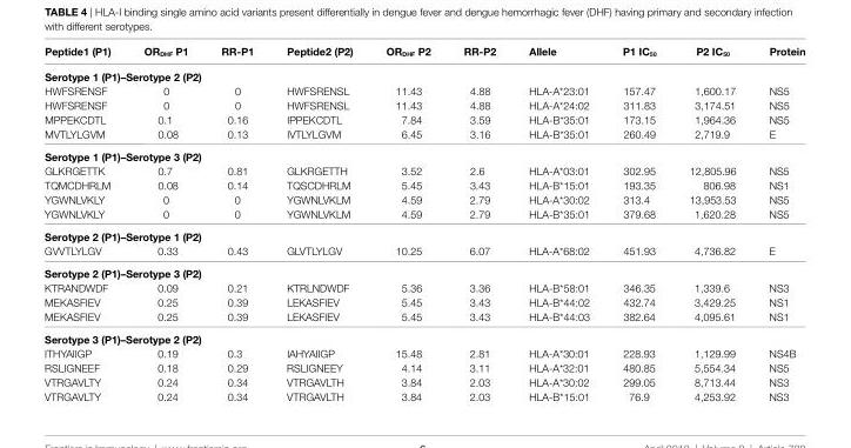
<table><thead><tr><td>Peptide1 (P1)</td><td>Or<sub>DhF</sub> P1</td><td>rr-P1</td><td>Peptide2 (P2)</td><td>Or<sub>DhF</sub> P2</td><td>rr-P2</td><td>allele</td><td>P1 ic<sub>50</sub></td><td>P2 ic<sub>50</sub></td><td>Protein</td></tr></thead><tbody><tr><td colspan="10">serotype 1 (P1)–serotype 2 (P2)</td></tr><tr><td>HWFSRENSF</td><td>0</td><td>0</td><td>HWFSRENSL</td><td>11.43</td><td>4.88</td><td>HLA-A*23:01</td><td>157.47</td><td>1,600.17</td><td>NS5</td></tr><tr><td>HWFSRENSF</td><td>0</td><td>0</td><td>HWFSRENSL</td><td>11.43</td><td>4.88</td><td>HLA-A*24:02</td><td>311.83</td><td>3,174.51</td><td>NS5</td></tr><tr><td>MPPEKCDTL</td><td>0.1</td><td>0.16</td><td>IPPEKCDTL</td><td>7.84</td><td>3.59</td><td>HLA-B*35:01</td><td>173.15</td><td>1,964.36</td><td>NS5</td></tr><tr><td>MVTLYLGVM</td><td>0.08</td><td>0.13</td><td>IVTLYLGVM</td><td>6.45</td><td>3.16</td><td>HLA-B*35:01</td><td>260.49</td><td>2,719.9</td><td>E</td></tr><tr><td colspan="10">serotype 1 (P1)–serotype 3 (P2)</td></tr><tr><td>GLKRGETTK</td><td>0.7</td><td>0.81</td><td>GLKRGETTH</td><td>3.52</td><td>2.6</td><td>HLA-A*03:01</td><td>302.95</td><td>12,805.96</td><td>NS5</td></tr><tr><td>TQMCDHRLM</td><td>0.08</td><td>0.14</td><td>TQSCDHRLM</td><td>5.45</td><td>3.43</td><td>HLA-B*15:01</td><td>193.35</td><td>806.98</td><td>NS1</td></tr><tr><td>YGWNLVKLY</td><td>0</td><td>0</td><td>YGWNLVKLM</td><td>4.59</td><td>2.79</td><td>HLA-A*30:02</td><td>313.4</td><td>13,953.53</td><td>NS5</td></tr><tr><td>YGWNLVKLY</td><td>0</td><td>0</td><td>YGWNLVKLM</td><td>4.59</td><td>2.79</td><td>HLA-B*35:01</td><td>379.68</td><td>1,620.28</td><td>NS5</td></tr><tr><td colspan="10">serotype 2 (P1)–serotype 1 (P2)</td></tr><tr><td>GVVTLYLGV</td><td>0.33</td><td>0.43</td><td>GLVTLYLGV</td><td>10.25</td><td>6.07</td><td>HLA-A*68:02</td><td>451.93</td><td>4,736.82</td><td>E</td></tr><tr><td colspan="10">serotype 2 (P1)–serotype 3 (P2)</td></tr><tr><td>KTRANDWDF</td><td>0.09</td><td>0.21</td><td>KTRLNDWDF</td><td>5.36</td><td>3.36</td><td>HLA-B*58:01</td><td>346.35</td><td>1,339.6</td><td>NS3</td></tr><tr><td>MEKASFIEV</td><td>0.25</td><td>0.39</td><td>LEKASFIEV</td><td>5.45</td><td>3.43</td><td>HLA-B*44:02</td><td>432.74</td><td>3,429.25</td><td>NS1</td></tr><tr><td>MEKASFIEV</td><td>0.25</td><td>0.39</td><td>LEKASFIEV</td><td>5.45</td><td>3.43</td><td>HLA-B*44:03</td><td>382.64</td><td>4,095.61</td><td>NS1</td></tr><tr><td colspan="10">serotype 3 (P1)–serotype 2 (P2)</td></tr><tr><td>ITHYAIIGP</td><td>0.19</td><td>0.3</td><td>IAHYAIIGP</td><td>15.48</td><td>2.81</td><td>HLA-A*30:01</td><td>228.93</td><td>1,129.99</td><td>NS4B</td></tr><tr><td>RSLIGNEEF</td><td>0.18</td><td>0.29</td><td>RSLIGNEEY</td><td>4.14</td><td>3.11</td><td>HLA-A*32:01</td><td>480.85</td><td>5,554.34</td><td>NS5</td></tr><tr><td>VTRGAVLTY</td><td>0.24</td><td>0.34</td><td>VTRGAVLTH</td><td>3.84</td><td>2.03</td><td>HLA-A*30:02</td><td>299.05</td><td>8,713.44</td><td>NS3</td></tr><tr><td>VTRGAVLTY</td><td>0.24</td><td>0.34</td><td>VTRGAVLTH</td><td>3.84</td><td>2.03</td><td>HLA-B*15:01</td><td>76.9</td><td>4,253.92</td><td>NS3</td></tr></tbody></table>